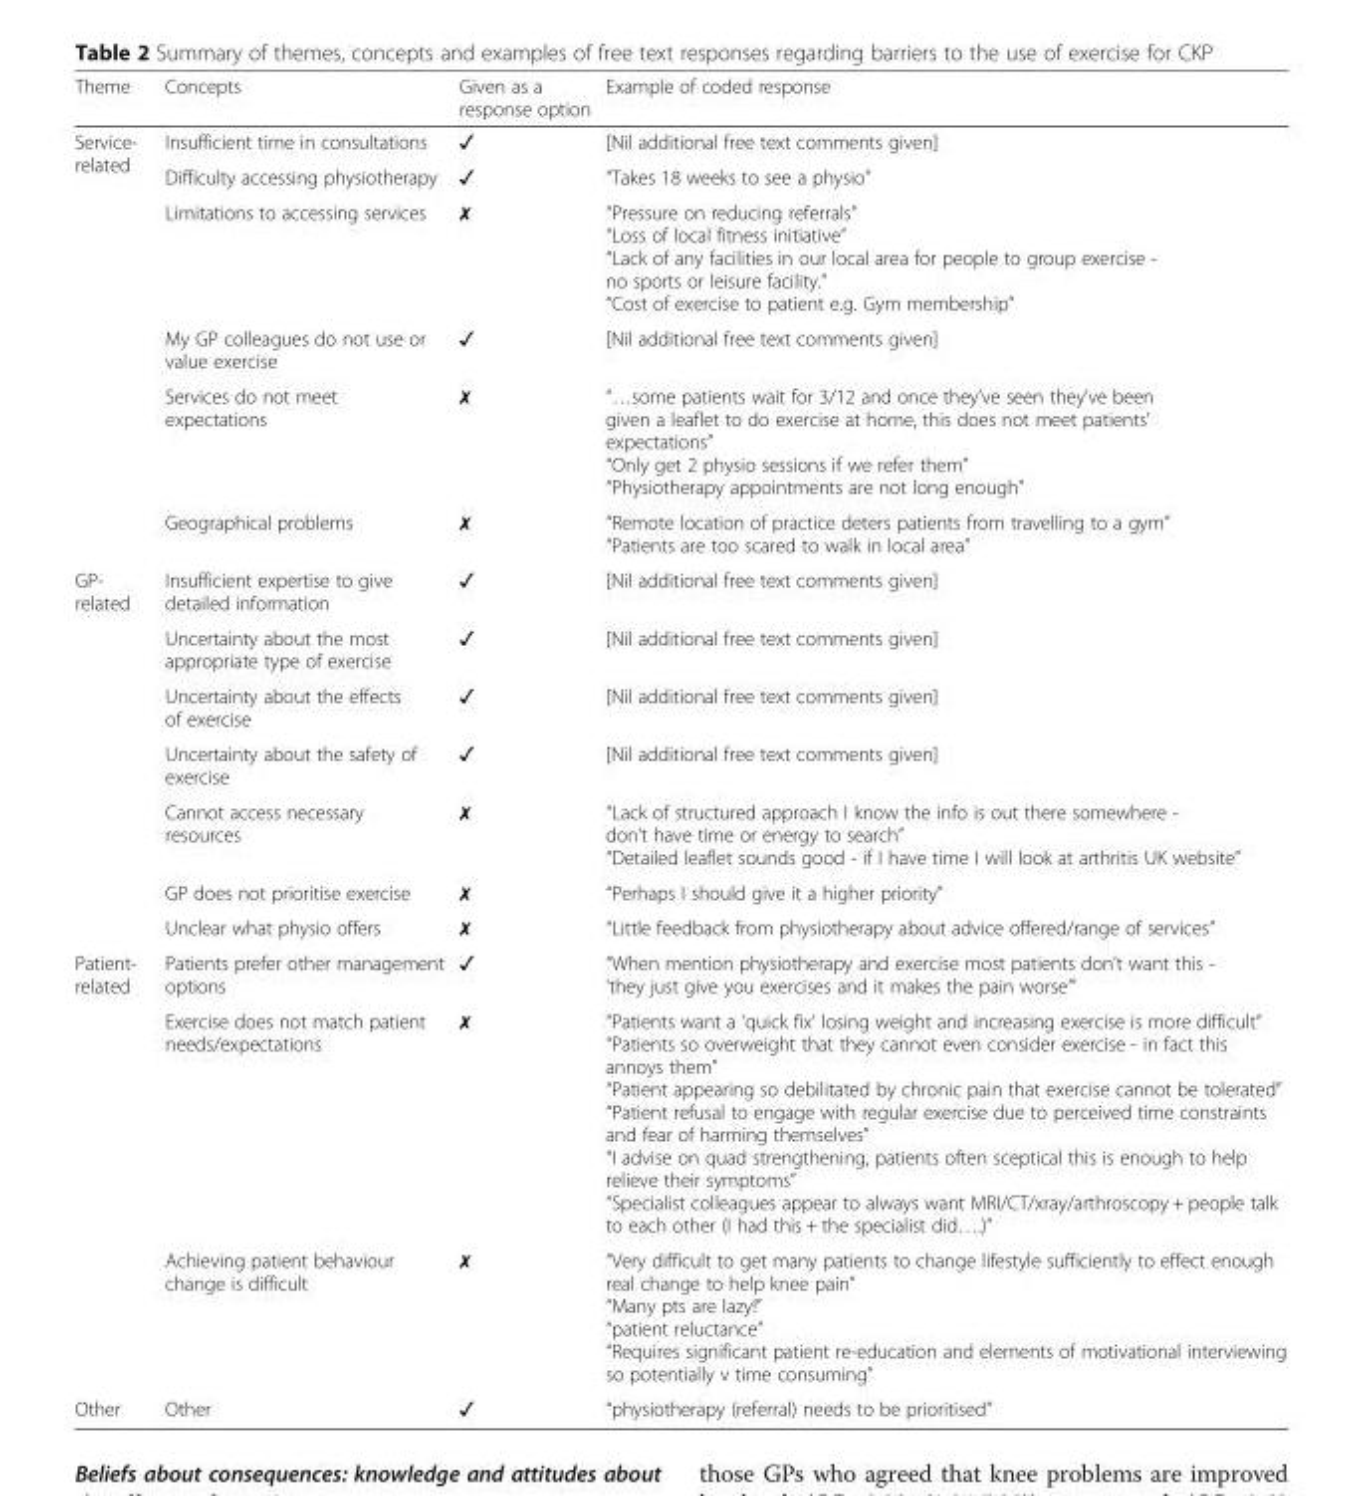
<table><thead><tr><td>Theme</td><td>Concepts</td><td>Given as a response option</td><td>Example of coded response</td></tr></thead><tbody><tr><td rowspan="6">Service- related</td><td>Insufficient time in consultations</td><td>✓</td><td>[Nil additional free text comments given]</td></tr><tr><td>Difficulty accessing physiotherapy</td><td>✓</td><td>“Takes 18 weeks to see a physio”</td></tr><tr><td>Limitations to accessing services</td><td>✗</td><td>“Pressure on reducing referrals” “Loss of local fitness initiative” “Lack of any facilities in our local area for people to group exercise - no sports or leisure facility.” “Cost of exercise to patient e.g. Gym membership”</td></tr><tr><td>My GP colleagues do not use or value exercise</td><td>✓</td><td>[Nil additional free text comments given]</td></tr><tr><td>Services do not meet expectations</td><td>✗</td><td>“…some patients wait for 3/12 and once they’ve seen they’ve been given a leaflet to do exercise at home, this does not meet patients’ expectations” “Only get 2 physio sessions if we refer them” “Physiotherapy appointments are not long enough”</td></tr><tr><td>Geographical problems</td><td>✗</td><td>“Remote location of practice deters patients from travelling to a gym” “Patients are too scared to walk in local area”</td></tr><tr><td rowspan="7">GP- related</td><td>Insufficient expertise to give detailed information</td><td>✓</td><td>[Nil additional free text comments given]</td></tr><tr><td>Uncertainty about the most appropriate type of exercise</td><td>✓</td><td>[Nil additional free text comments given]</td></tr><tr><td>Uncertainty about the effects of exercise</td><td>✓</td><td>[Nil additional free text comments given]</td></tr><tr><td>Uncertainty about the safety of exercise</td><td>✓</td><td>[Nil additional free text comments given]</td></tr><tr><td>Cannot access necessary resources</td><td>✗</td><td>“Lack of structured approach I know the info is out there somewhere - don’t have time or energy to search” “Detailed leaflet sounds good - if I have time I will look at arthritis UK website”</td></tr><tr><td>GP does not prioritise exercise</td><td>✗</td><td>“Perhaps I should give it a higher priority”</td></tr><tr><td>Unclear what physio offers</td><td>✗</td><td>“Little feedback from physiotherapy about advice offered/range of services”</td></tr><tr><td rowspan="3">Patient- related</td><td>Patients prefer other management options</td><td>✓</td><td>“When mention physiotherapy and exercise most patients don’t want this - ‘they just give you exercises and it makes the pain worse’”</td></tr><tr><td>Exercise does not match patient needs/expectations</td><td>✗</td><td>“Patients want a ‘quick fix’ losing weight and increasing exercise is more difficult” “Patients so overweight that they cannot even consider exercise - in fact this annoys them” “Patient appearing so debilitated by chronic pain that exercise cannot be tolerated” “Patient refusal to engage with regular exercise due to perceived time constraints and fear of harming themselves” “I advise on quad strengthening, patients often sceptical this is enough to help relieve their symptoms” “Specialist colleagues appear to always want MRI/CT/xray/arthroscopy + people talk to each other (I had this + the specialist did….)”</td></tr><tr><td>Achieving patient behaviour change is difficult</td><td>✗</td><td>“Very difficult to get many patients to change lifestyle sufficiently to effect enough real change to help knee pain” “Many pts are lazy!” “patient reluctance” “Requires significant patient re-education and elements of motivational interviewing so potentially v time consuming”</td></tr><tr><td>Other</td><td>Other</td><td>✓</td><td>“physiotherapy (referral) needs to be prioritised”</td></tr></tbody></table>